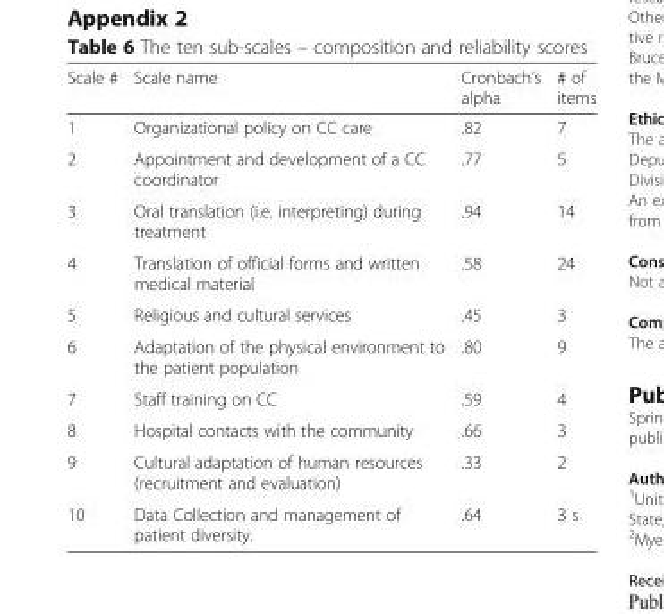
<table><thead><tr><td>Scale #</td><td>Scale name</td><td>Cronbach’s alpha</td><td># of items</td></tr></thead><tbody><tr><td>1</td><td>Organizational policy on CC care</td><td>.82</td><td>7</td></tr><tr><td>2</td><td>Appointment and development of a CC coordinator</td><td>.77</td><td>5</td></tr><tr><td>3</td><td>Oral translation (i.e. interpreting) during treatment</td><td>.94</td><td>14</td></tr><tr><td>4</td><td>Translation of official forms and written medical material</td><td>.58</td><td>24</td></tr><tr><td>5</td><td>Religious and cultural services</td><td>.45</td><td>3</td></tr><tr><td>6</td><td>Adaptation of the physical environment to the patient population</td><td>.80</td><td>9</td></tr><tr><td>7</td><td>Staff training on CC</td><td>.59</td><td>4</td></tr><tr><td>8</td><td>Hospital contacts with the community</td><td>.66</td><td>3</td></tr><tr><td>9</td><td>Cultural adaptation of human resources (recruitment and evaluation)</td><td>.33</td><td>2</td></tr><tr><td>10</td><td>Data Collection and management of patient diversity.</td><td>.64</td><td>3 s</td></tr></tbody></table>